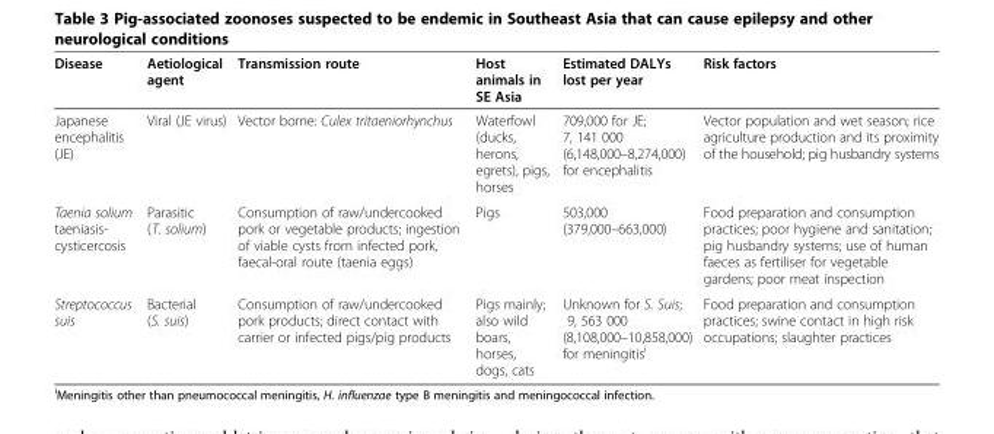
<table><thead><tr><td>Disease</td><td>Aetiological agent</td><td>Transmission route</td><td>Host animals in SE Asia</td><td>Estimated DALYs lost per year</td><td>Risk factors</td></tr></thead><tbody><tr><td>Japanese encephalitis (JE)</td><td>Viral (JE virus)</td><td>Vector borne: Culex tritaeniorhynchus</td><td>Waterfowl (ducks, herons, egrets), pigs, horses</td><td>709,000 for JE; 7, 141 000 (6,148,000–8,274,000) for encephalitis</td><td>Vector population and wet season; rice agriculture production and its proximity of the household; pig husbandry systems</td></tr><tr><td>Taenia solium taeniasis- cysticercosis</td><td>Parasitic (T. solium)</td><td>Consumption of raw/undercooked pork or vegetable products; ingestion of viable cysts from infected pork, faecal-oral route (taenia eggs)</td><td>Pigs</td><td>503,000 (379,000–663,000)</td><td>Food preparation and consumption practices; poor hygiene and sanitation; pig husbandry systems; use of human faeces as fertiliser for vegetable gardens; poor meat inspection</td></tr><tr><td>Streptococcus suis</td><td>Bacterial (S. suis)</td><td>Consumption of raw/undercooked pork products; direct contact with carrier or infected pigs/pig products</td><td>Pigs mainly; also wild boars, horses, dogs, cats</td><td>Unknown for S. Suis; 9, 563 000 (8,108,000–10,858,000) for meningitis<sup>i</sup></td><td>Food preparation and consumption practices; swine contact in high risk occupations; slaughter practices</td></tr></tbody></table>